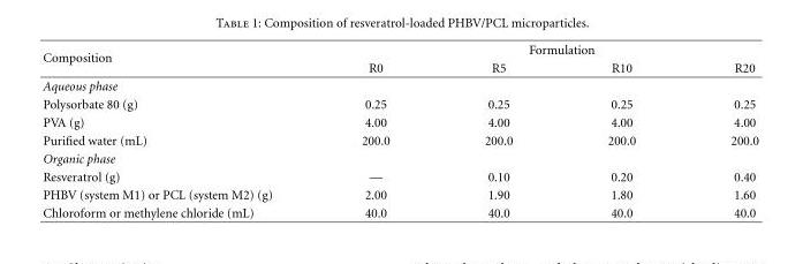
<table><thead><tr><td rowspan="2">Composition</td><td colspan="4">Formulation</td></tr><tr><td>R0</td><td>R5</td><td>R10</td><td>R20</td></tr></thead><tbody><tr><td colspan="5">Aqueous phase</td></tr><tr><td>Polysorbate 80 (g)</td><td>0.25</td><td>0.25</td><td>0.25</td><td>0.25</td></tr><tr><td>PVA (g)</td><td>4.00</td><td>4.00</td><td>4.00</td><td>4.00</td></tr><tr><td>Purified water (mL)</td><td>200.0</td><td>200.0</td><td>200.0</td><td>200.0</td></tr><tr><td colspan="5">Organic phase</td></tr><tr><td>Resveratrol (g)</td><td>—</td><td>0.10</td><td>0.20</td><td>0.40</td></tr><tr><td>PHBV (system M1) or PCL (system M2) (g)</td><td>2.00</td><td>1.90</td><td>1.80</td><td>1.60</td></tr><tr><td>Chloroform or methylene chloride (mL)</td><td>40.0</td><td>40.0</td><td>40.0</td><td>40.0</td></tr></tbody></table>